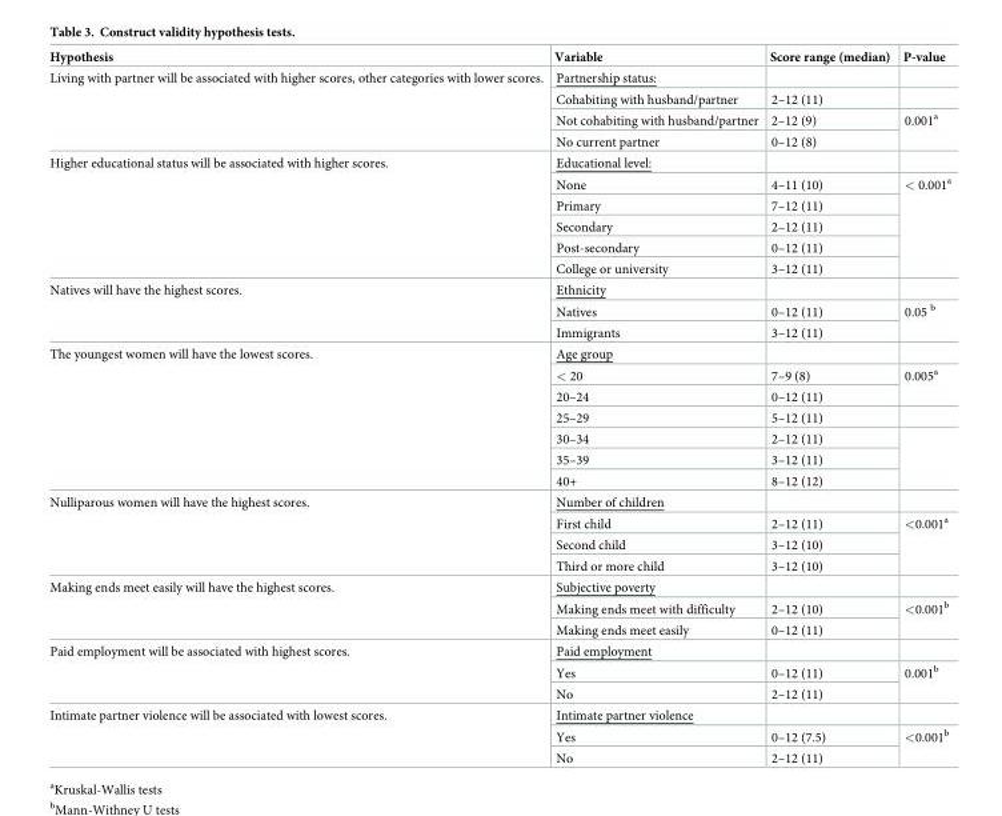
<table><thead><tr><td>Hypothesis</td><td>Variable</td><td>Score range (median)</td><td>P-value</td></tr></thead><tbody><tr><td rowspan="4">Living with partner will be associated with higher scores, other categories with lower scores.</td><td>Partnership status:</td><td></td><td></td></tr><tr><td>Cohabiting with husband/partner</td><td>2–12 (11)</td><td></td></tr><tr><td>Not cohabiting with husband/partner</td><td>2–12 (9)</td><td rowspan="2">0.001<sup>a</sup></td></tr><tr><td>No current partner</td><td>0–12 (8)</td></tr><tr><td rowspan="6">Higher educational status will be associated with higher scores.</td><td>Educational level:</td><td></td><td></td></tr><tr><td>None</td><td>4–11 (10)</td><td rowspan="5">&lt; 0.001<sup>a</sup></td></tr><tr><td>Primary</td><td>7–12 (11)</td></tr><tr><td>Secondary</td><td>2–12 (11)</td></tr><tr><td>Post-secondary</td><td>0–12 (11)</td></tr><tr><td>College or university</td><td>3–12 (11)</td></tr><tr><td rowspan="3">Natives will have the highest scores.</td><td>Ethnicity</td><td></td><td></td></tr><tr><td>Natives</td><td>0–12 (11)</td><td rowspan="2">0.05 <sup>b</sup></td></tr><tr><td>Immigrants</td><td>3–12 (11)</td></tr><tr><td rowspan="7">The youngest women will have the lowest scores.</td><td>Age group</td><td></td><td></td></tr><tr><td>&lt; 20</td><td>7–9 (8)</td><td rowspan="2">0.005<sup>a</sup></td></tr><tr><td>20–24</td><td>0–12 (11)</td></tr><tr><td>25–29</td><td>5–12 (11)</td><td></td></tr><tr><td>30–34</td><td>2–12 (11)</td><td rowspan="3"></td></tr><tr><td>35–39</td><td>3–12 (11)</td></tr><tr><td>40+</td><td>8–12 (12)</td></tr><tr><td rowspan="4">Nulliparous women will have the highest scores.</td><td>Number of children</td><td></td><td></td></tr><tr><td>First child</td><td>2–12 (11)</td><td rowspan="3">&lt;0.001<sup>a</sup></td></tr><tr><td>Second child</td><td>3–12 (10)</td></tr><tr><td>Third or more child</td><td>3–12 (10)</td></tr><tr><td rowspan="3">Making ends meet easily will have the highest scores.</td><td>Subjective poverty</td><td></td><td></td></tr><tr><td>Making ends meet with difficulty</td><td>2–12 (10)</td><td rowspan="2">&lt;0.001<sup>b</sup></td></tr><tr><td>Making ends meet easily</td><td>0–12 (11)</td></tr><tr><td rowspan="3">Paid employment will be associated with highest scores.</td><td>Paid employment</td><td></td><td></td></tr><tr><td>Yes</td><td>0–12 (11)</td><td rowspan="2">0.001<sup>b</sup></td></tr><tr><td>No</td><td>2–12 (11)</td></tr><tr><td rowspan="3">Intimate partner violence will be associated with lowest scores.</td><td>Intimate partner violence</td><td></td><td></td></tr><tr><td>Yes</td><td>0–12 (7.5)</td><td rowspan="2">&lt;0.001<sup>b</sup></td></tr><tr><td>No</td><td>2–12 (11)</td></tr></tbody></table>